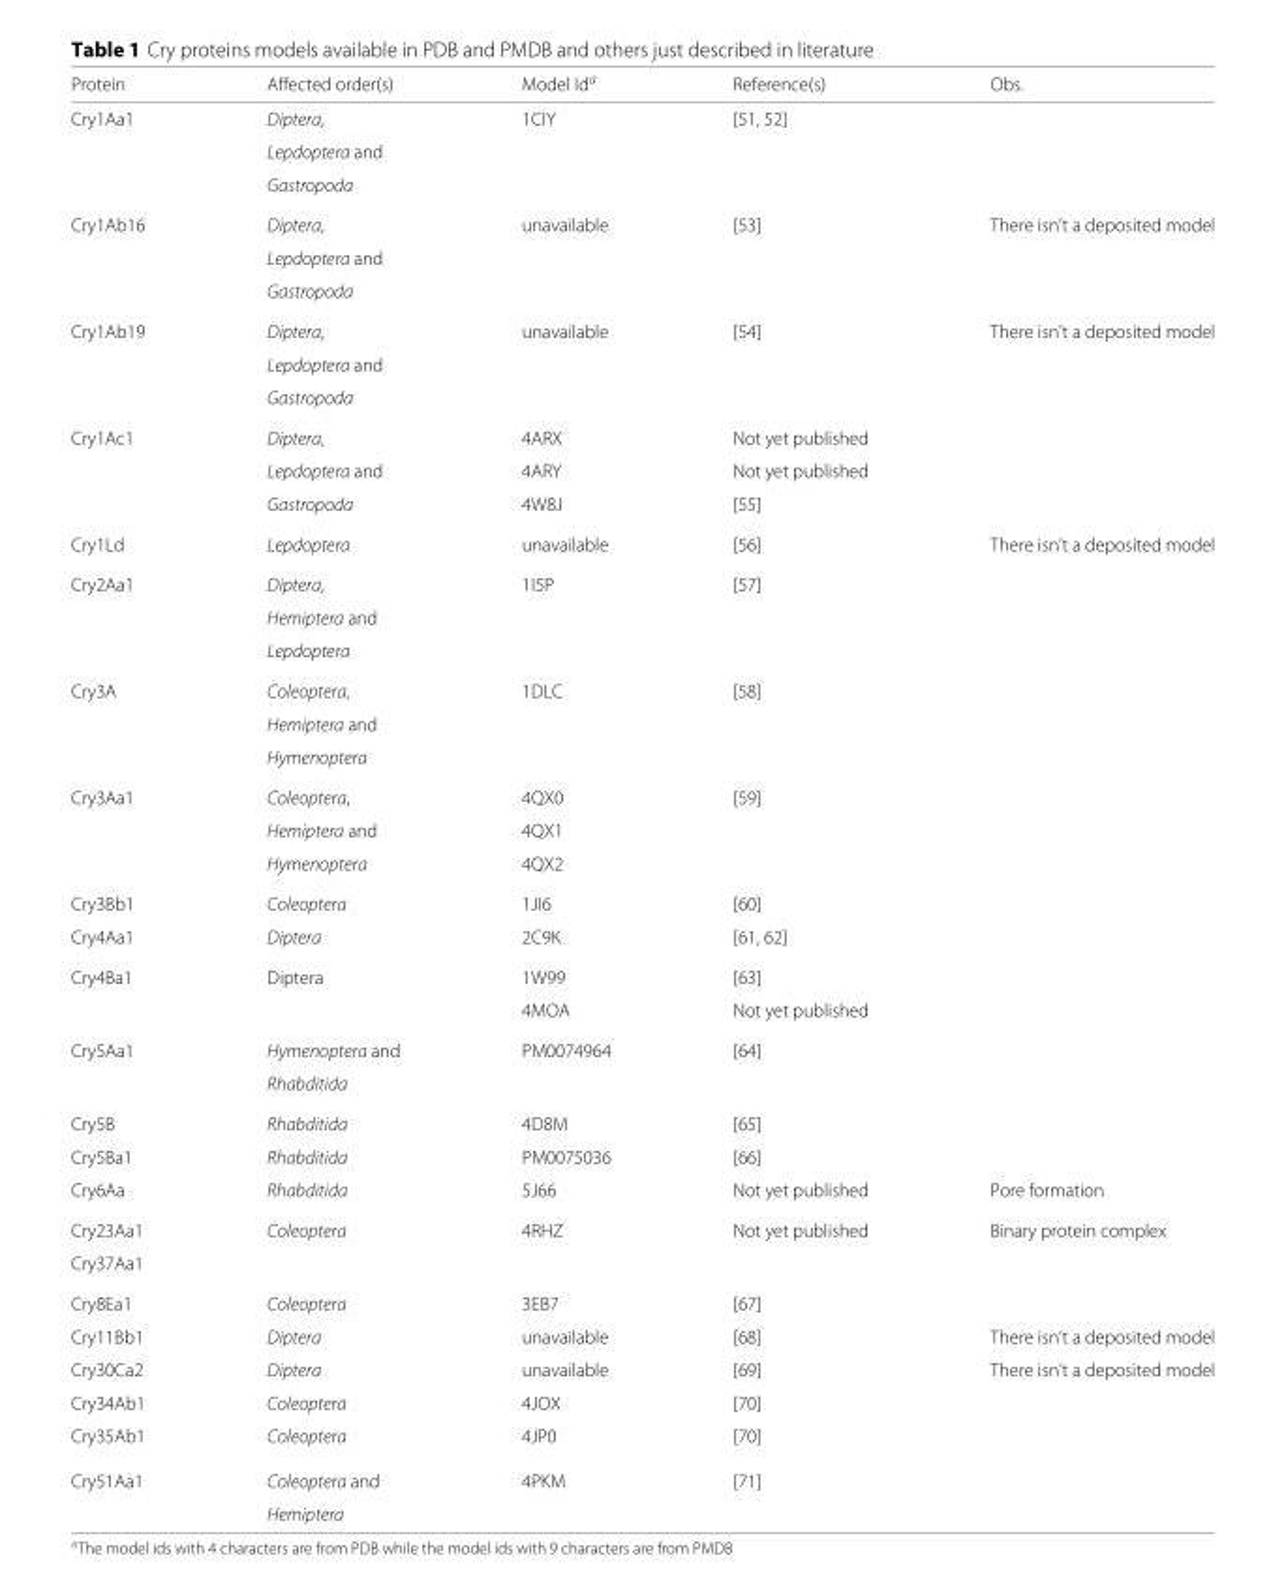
<table><thead><tr><td>Protein</td><td>Affected order(s)</td><td>Model Id<sup>a</sup></td><td>Reference(s)</td><td>Obs.</td></tr></thead><tbody><tr><td rowspan="3">Cry1Aa1</td><td>Diptera,</td><td>1CIY</td><td>[51, 52]</td><td></td></tr><tr><td>Lepdoptera and</td><td></td><td></td><td></td></tr><tr><td>Gastropoda</td><td></td><td></td><td></td></tr><tr><td rowspan="3">Cry1Ab16</td><td>Diptera,</td><td>unavailable</td><td>[53]</td><td>There isn’t a deposited model</td></tr><tr><td>Lepdoptera and</td><td></td><td></td><td></td></tr><tr><td>Gastropoda</td><td></td><td></td><td></td></tr><tr><td rowspan="3">Cry1Ab19</td><td>Diptera,</td><td>unavailable</td><td>[54]</td><td>There isn’t a deposited model</td></tr><tr><td>Lepdoptera and</td><td></td><td></td><td></td></tr><tr><td>Gastropoda</td><td></td><td></td><td></td></tr><tr><td rowspan="3">Cry1Ac1</td><td>Diptera,</td><td>4ARX</td><td>Not yet published</td><td></td></tr><tr><td>Lepdoptera and</td><td>4ARY</td><td>Not yet published</td><td></td></tr><tr><td>Gastropoda</td><td>4W8J</td><td>[55]</td><td></td></tr><tr><td>Cry1Ld</td><td>Lepdoptera</td><td>unavailable</td><td>[56]</td><td>There isn’t a deposited model</td></tr><tr><td rowspan="3">Cry2Aa1</td><td>Diptera,</td><td>1I5P</td><td>[57]</td><td></td></tr><tr><td>Hemiptera and</td><td></td><td></td><td></td></tr><tr><td>Lepdoptera</td><td></td><td></td><td></td></tr><tr><td rowspan="3">Cry3A</td><td>Coleoptera,</td><td>1DLC</td><td>[58]</td><td></td></tr><tr><td>Hemiptera and</td><td></td><td></td><td></td></tr><tr><td>Hymenoptera</td><td></td><td></td><td></td></tr><tr><td rowspan="3">Cry3Aa1</td><td>Coleoptera,</td><td>4QX0</td><td>[59]</td><td></td></tr><tr><td>Hemiptera and</td><td>4QX1</td><td></td><td></td></tr><tr><td>Hymenoptera</td><td>4QX2</td><td></td><td></td></tr><tr><td>Cry3Bb1</td><td>Coleoptera</td><td>1JI6</td><td>[60]</td><td></td></tr><tr><td>Cry4Aa1</td><td>Diptera</td><td>2C9K</td><td>[61, 62]</td><td></td></tr><tr><td rowspan="2">Cry4Ba1</td><td>Diptera</td><td>1W99</td><td>[63]</td><td></td></tr><tr><td></td><td>4MOA</td><td>Not yet published</td><td></td></tr><tr><td rowspan="2">Cry5Aa1</td><td>Hymenoptera and</td><td>PM0074964</td><td>[64]</td><td></td></tr><tr><td>Rhabditida</td><td></td><td></td><td></td></tr><tr><td>Cry5B</td><td>Rhabditida</td><td>4D8M</td><td>[65]</td><td></td></tr><tr><td>Cry5Ba1</td><td>Rhabditida</td><td>PM0075036</td><td>[66]</td><td></td></tr><tr><td>Cry6Aa</td><td>Rhabditida</td><td>5J66</td><td>Not yet published</td><td>Pore formation</td></tr><tr><td>Cry23Aa1</td><td>Coleoptera</td><td>4RHZ</td><td>Not yet published</td><td>Binary protein complex</td></tr><tr><td colspan="5">Cry37Aa1</td></tr><tr><td>Cry8Ea1</td><td>Coleoptera</td><td>3EB7</td><td>[67]</td><td></td></tr><tr><td>Cry11Bb1</td><td>Diptera</td><td>unavailable</td><td>[68]</td><td>There isn’t a deposited model</td></tr><tr><td>Cry30Ca2</td><td>Diptera</td><td>unavailable</td><td>[69]</td><td>There isn’t a deposited model</td></tr><tr><td>Cry34Ab1</td><td>Coleoptera</td><td>4JOX</td><td>[70]</td><td></td></tr><tr><td>Cry35Ab1</td><td>Coleoptera</td><td>4JP0</td><td>[70]</td><td></td></tr><tr><td rowspan="2">Cry51Aa1</td><td>Coleoptera and</td><td>4PKM</td><td>[71]</td><td></td></tr><tr><td>Hemiptera</td><td></td><td></td><td></td></tr></tbody></table>